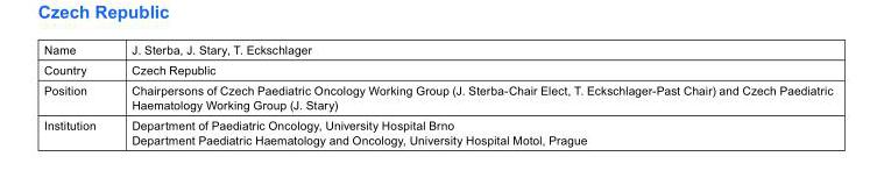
<table><tbody><tr><td>Name</td><td>J. Sterba, J. Stary, T. Eckschlager</td></tr><tr><td>Country</td><td>Czech Republic</td></tr><tr><td>Position</td><td>Chairpersons of Czech Paediatric Oncology Working Group (J. Sterba-Chair Elect, T. Eckschlager-Past Chair) and Czech Paediatric Haematology Working Group (J. Stary)</td></tr><tr><td>Institution</td><td>Department of Paediatric Oncology, University Hospital Brno Department Paediatric Haematology and Oncology, University Hospital Motol, Prague</td></tr></tbody></table>